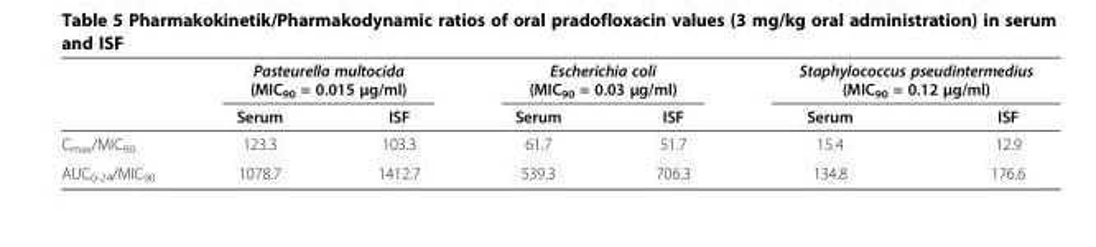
<table><thead><tr><td rowspan="2"></td><td colspan="2">Pasteurella multocida (MIC<sub>90</sub> = 0.015 μg/ml)</td><td colspan="2">Escherichia coli (MIC<sub>90</sub> = 0.03 μg/ml)</td><td colspan="2">Staphylococcus pseudintermedius (MIC<sub>90</sub> = 0.12 μg/ml)</td></tr><tr><td>Serum</td><td>ISF</td><td>Serum</td><td>ISF</td><td>Serum</td><td>ISF</td></tr></thead><tbody><tr><td>C<sub>max</sub>/MIC<sub>90</sub></td><td>123.3</td><td>103.3</td><td>61.7</td><td>51.7</td><td>15.4</td><td>12.9</td></tr><tr><td>AUC<sub>0-24</sub>/MIC<sub>90</sub></td><td>1078.7</td><td>1412.7</td><td>539.3</td><td>706.3</td><td>134.8</td><td>176.6</td></tr></tbody></table>